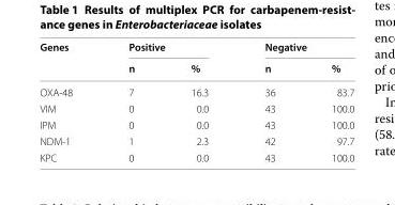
<table><thead><tr><td rowspan="2">Genes</td><td colspan="2">Positive</td><td colspan="2">Negative</td></tr><tr><td>n</td><td>%</td><td>n</td><td>%</td></tr></thead><tbody><tr><td>OXA-48</td><td>7</td><td>16.3</td><td>36</td><td>83.7</td></tr><tr><td>VIM</td><td>0</td><td>0.0</td><td>43</td><td>100.0</td></tr><tr><td>IPM</td><td>0</td><td>0.0</td><td>43</td><td>100.0</td></tr><tr><td>NDM-1</td><td>1</td><td>2.3</td><td>42</td><td>97.7</td></tr><tr><td>KPC</td><td>0</td><td>0.0</td><td>43</td><td>100.0</td></tr></tbody></table>